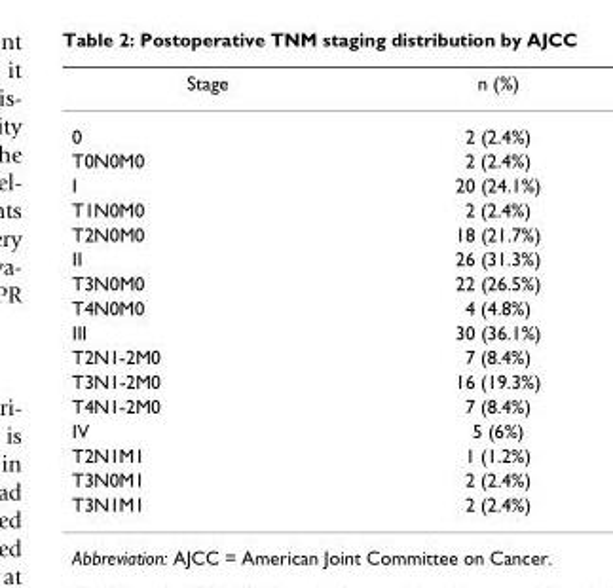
<table><thead><tr><td>Stage</td><td>n (%)</td></tr></thead><tbody><tr><td>0</td><td>2 (2.4%)</td></tr><tr><td>T0N0M0</td><td>2 (2.4%)</td></tr><tr><td>I</td><td>20 (24.1%)</td></tr><tr><td>T1N0M0</td><td>2 (2.4%)</td></tr><tr><td>T2N0M0</td><td>18 (21.7%)</td></tr><tr><td>II</td><td>26 (31.3%)</td></tr><tr><td>T3N0M0</td><td>22 (26.5%)</td></tr><tr><td>T4N0M0</td><td>4 (4.8%)</td></tr><tr><td>III</td><td>30 (36.1%)</td></tr><tr><td>T2N1-2M0</td><td>7 (8.4%)</td></tr><tr><td>T3N1-2M0</td><td>16 (19.3%)</td></tr><tr><td>T4N1-2M0</td><td>7 (8.4%)</td></tr><tr><td>IV</td><td>5 (6%)</td></tr><tr><td>T2N1M1</td><td>1 (1.2%)</td></tr><tr><td>T3N0M1</td><td>2 (2.4%)</td></tr><tr><td>T3N1M1</td><td>2 (2.4%)</td></tr></tbody></table>